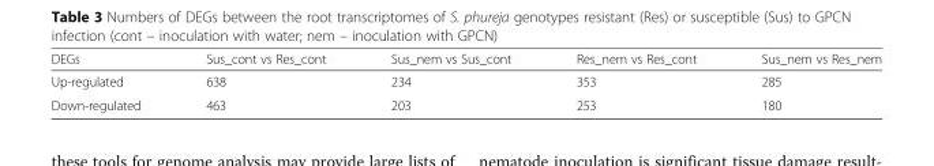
<table><thead><tr><td>DEGs</td><td>Sus_cont vs Res_cont</td><td>Sus_nem vs Sus_cont</td><td>Res_nem vs Res_cont</td><td>Sus_nem vs Res_nem</td></tr></thead><tbody><tr><td>Up-regulated</td><td>638</td><td>234</td><td>353</td><td>285</td></tr><tr><td>Down-regulated</td><td>463</td><td>203</td><td>253</td><td>180</td></tr></tbody></table>